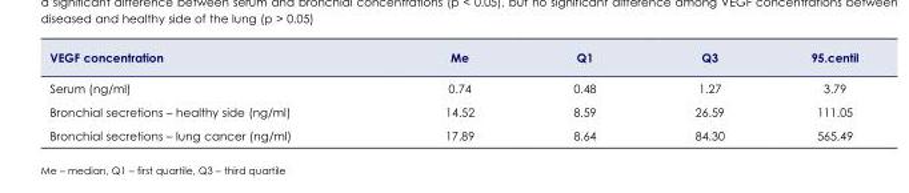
<table><thead><tr><td>VEGF concentration</td><td>Me</td><td>Q1</td><td>Q3</td><td>95.centil</td></tr></thead><tbody><tr><td>Serum (ng/ml)</td><td>0.74</td><td>0.48</td><td>1.27</td><td>3.79</td></tr><tr><td>Bronchial secretions – healthy side (ng/ml)</td><td>14.52</td><td>8.59</td><td>26.59</td><td>111.05</td></tr><tr><td>Bronchial secretions – lung cancer (ng/ml)</td><td>17.89</td><td>8.64</td><td>84.30</td><td>565.49</td></tr></tbody></table>